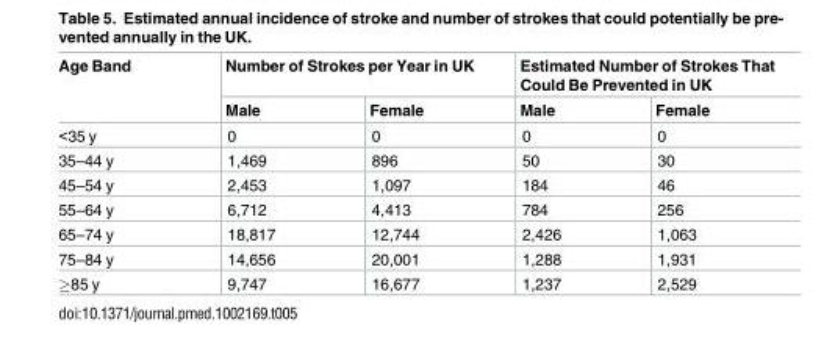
<table><thead><tr><td rowspan="2">Age Band</td><td colspan="2">Number of Strokes per Year in UK</td><td colspan="2">Estimated Number of Strokes That Could Be Prevented in UK</td></tr><tr><td>Male</td><td>Female</td><td>Male</td><td>Female</td></tr></thead><tbody><tr><td>&lt;35 y</td><td>0</td><td>0</td><td>0</td><td>0</td></tr><tr><td>35–44 y</td><td>1,469</td><td>896</td><td>50</td><td>30</td></tr><tr><td>45–54 y</td><td>2,453</td><td>1,097</td><td>184</td><td>46</td></tr><tr><td>55–64 y</td><td>6,712</td><td>4,413</td><td>784</td><td>256</td></tr><tr><td>65–74 y</td><td>18,817</td><td>12,744</td><td>2,426</td><td>1,063</td></tr><tr><td>75–84 y</td><td>14,656</td><td>20,001</td><td>1,288</td><td>1,931</td></tr><tr><td>≥85 y</td><td>9,747</td><td>16,677</td><td>1,237</td><td>2,529</td></tr></tbody></table>